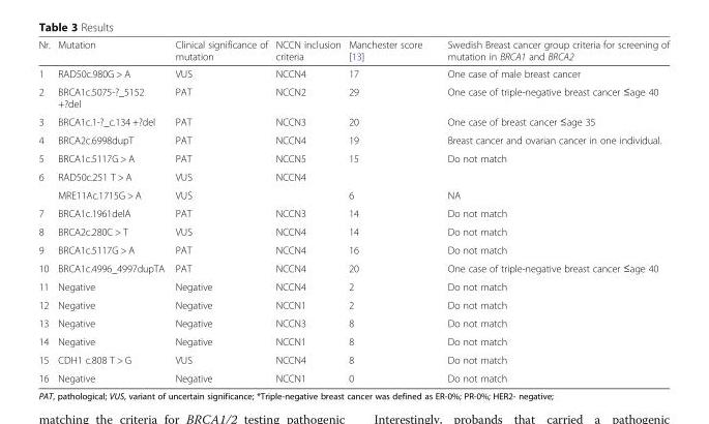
<table><thead><tr><td>Nr.</td><td>Mutation</td><td>Clinical significance of mutation</td><td>NCCN inclusion criteria</td><td>Manchester score [13]</td><td>Swedish Breast cancer group criteria for screening of mutation in BRCA1 and BRCA2</td></tr></thead><tbody><tr><td>1</td><td>RAD50c.980G &gt; A</td><td>VUS</td><td>NCCN4</td><td>17</td><td>One case of male breast cancer</td></tr><tr><td>2</td><td>BRCA1c.5075-?_5152 +?del</td><td>PAT</td><td>NCCN2</td><td>29</td><td>One case of triple-negative breast cancer ≤age 40</td></tr><tr><td>3</td><td>BRCA1c.1-?_c.134 +?del</td><td>PAT</td><td>NCCN3</td><td>20</td><td>One case of breast cancer ≤age 35</td></tr><tr><td>4</td><td>BRCA2c.6998dupT</td><td>PAT</td><td>NCCN4</td><td>19</td><td>Breast cancer and ovarian cancer in one individual.</td></tr><tr><td>5</td><td>BRCA1c.5117G &gt; A</td><td>PAT</td><td>NCCN5</td><td>15</td><td>Do not match</td></tr><tr><td rowspan="2">6</td><td>RAD50c.251 T &gt; A</td><td>VUS</td><td>NCCN4</td><td colspan="2"></td></tr><tr><td>MRE11Ac.1715G &gt; A</td><td colspan="2">VUS</td><td>6</td><td>NA</td></tr><tr><td>7</td><td>BRCA1c.1961delA</td><td>PAT</td><td>NCCN3</td><td>14</td><td>Do not match</td></tr><tr><td>8</td><td>BRCA2c.280C &gt; T</td><td>VUS</td><td>NCCN4</td><td>14</td><td>Do not match</td></tr><tr><td>9</td><td>BRCA1c.5117G &gt; A</td><td>PAT</td><td>NCCN4</td><td>16</td><td>Do not match</td></tr><tr><td>10</td><td>BRCA1c.4996_4997dupTA</td><td>PAT</td><td>NCCN4</td><td>20</td><td>One case of triple-negative breast cancer ≤age 40</td></tr><tr><td>11</td><td>Negative</td><td>Negative</td><td>NCCN4</td><td>2</td><td>Do not match</td></tr><tr><td>12</td><td>Negative</td><td>Negative</td><td>NCCN1</td><td>2</td><td>Do not match</td></tr><tr><td>13</td><td>Negative</td><td>Negative</td><td>NCCN3</td><td>8</td><td>Do not match</td></tr><tr><td>14</td><td>Negative</td><td>Negative</td><td>NCCN1</td><td>8</td><td>Do not match</td></tr><tr><td>15</td><td>CDH1 c.808 T &gt; G</td><td>VUS</td><td>NCCN4</td><td>8</td><td>Do not match</td></tr><tr><td>16</td><td>Negative</td><td>Negative</td><td>NCCN1</td><td>0</td><td>Do not match</td></tr></tbody></table>